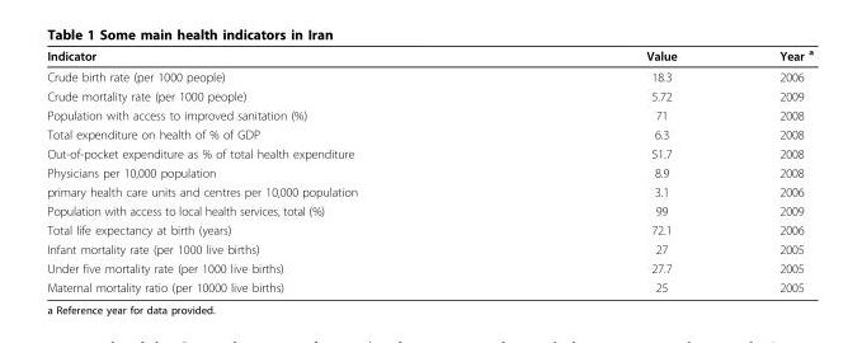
<table><thead><tr><td>Indicator</td><td>Value</td><td>Year <sup>a</sup></td></tr></thead><tbody><tr><td>Crude birth rate (per 1000 people)</td><td>18.3</td><td>2006</td></tr><tr><td>Crude mortality rate (per 1000 people)</td><td>5.72</td><td>2009</td></tr><tr><td>Population with access to improved sanitation (%)</td><td>71</td><td>2008</td></tr><tr><td>Total expenditure on health of % of GDP</td><td>6.3</td><td>2008</td></tr><tr><td>Out-of-pocket expenditure as % of total health expenditure</td><td>51.7</td><td>2008</td></tr><tr><td>Physicians per 10,000 population</td><td>8.9</td><td>2008</td></tr><tr><td>primary health care units and centres per 10,000 population</td><td>3.1</td><td>2006</td></tr><tr><td>Population with access to local health services, total (%)</td><td>99</td><td>2009</td></tr><tr><td>Total life expectancy at birth (years)</td><td>72.1</td><td>2006</td></tr><tr><td>Infant mortality rate (per 1000 live births)</td><td>27</td><td>2005</td></tr><tr><td>Under five mortality rate (per 1000 live births)</td><td>27.7</td><td>2005</td></tr><tr><td>Maternal mortality ratio (per 10000 live births)</td><td>25</td><td>2005</td></tr></tbody></table>